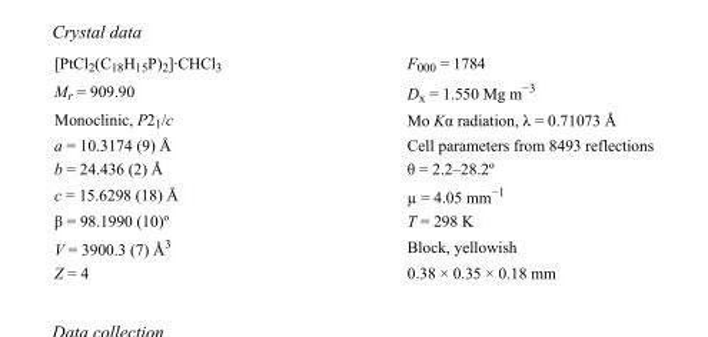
<table><tbody><tr><td>[PtCl<sub>2</sub>(C<sub>18</sub>H<sub>15</sub>P)<sub>2</sub>]·CHCl<sub>3</sub></td><td>F000 = 1784</td></tr><tr><td>M<sub>r</sub> = 909.90</td><td>D<sub>x</sub> = 1.550 Mg m<sup>−3</sup></td></tr><tr><td>Monoclinic, P2<sub>1</sub>/c</td><td>Mo Kα radiation, λ = 0.71073 Å</td></tr><tr><td>a = 10.3174 (9) Å</td><td>Cell parameters from 8493 reflections</td></tr><tr><td>b = 24.436 (2) Å</td><td>θ = 2.2–28.2º</td></tr><tr><td>c = 15.6298 (18) Å</td><td>µ = 4.05 mm<sup>−1</sup></td></tr><tr><td>β = 98.1990 (10)º</td><td>T = 298 K</td></tr><tr><td>V = 3900.3 (7) Å<sup>3</sup></td><td>Block, yellowish</td></tr><tr><td>Z = 4</td><td>0.38 × 0.35 × 0.18 mm</td></tr></tbody></table>